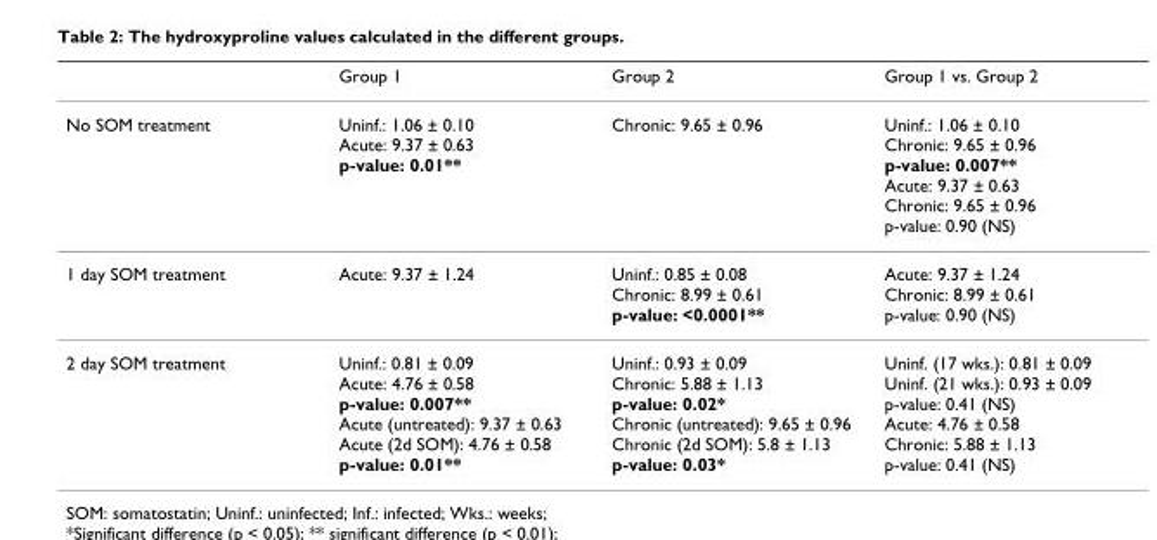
<table><thead><tr><td></td><td>Group 1</td><td>Group 2</td><td>Group 1 vs. Group 2</td></tr></thead><tbody><tr><td>No SOM treatment</td><td>Uninf.: 1.06 ± 0.10 Acute: 9.37 ± 0.63 p-value: 0.01**</td><td>Chronic: 9.65 ± 0.96</td><td>Uninf.: 1.06 ± 0.10 Chronic: 9.65 ± 0.96 p-value: 0.007** Acute: 9.37 ± 0.63 Chronic: 9.65 ± 0.96 p-value: 0.90 (NS)</td></tr><tr><td>1 day SOM treatment</td><td>Acute: 9.37 ± 1.24</td><td>Uninf.: 0.85 ± 0.08 Chronic: 8.99 ± 0.61 p-value: &lt;0.0001**</td><td>Acute: 9.37 ± 1.24 Chronic: 8.99 ± 0.61 p-value: 0.90 (NS)</td></tr><tr><td>2 day SOM treatment</td><td>Uninf.: 0.81 ± 0.09 Acute: 4.76 ± 0.58 p-value: 0.007** Acute (untreated): 9.37 ± 0.63 Acute (2d SOM): 4.76 ± 0.58 p-value: 0.01**</td><td>Uninf.: 0.93 ± 0.09 Chronic: 5.88 ± 1.13 p-value: 0.02* Chronic (untreated): 9.65 ± 0.96 Chronic (2d SOM): 5.8 ± 1.13 p-value: 0.03*</td><td>Uninf. (17 wks.): 0.81 ± 0.09 Uninf. (21 wks.): 0.93 ± 0.09 p-value: 0.41 (NS) Acute: 4.76 ± 0.58 Chronic: 5.88 ± 1.13 p-value: 0.41 (NS)</td></tr></tbody></table>